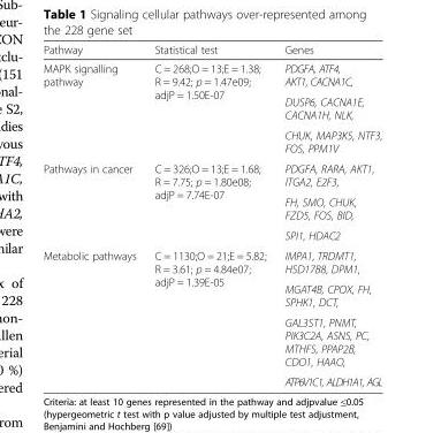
<table><thead><tr><td>Pathway</td><td>Statistical test</td><td>Genes</td></tr></thead><tbody><tr><td rowspan="3">MAPK signalling pathway</td><td rowspan="3">C = 268;O = 13;E = 1.38; R = 9.42; p = 1.47e09; adjP = 1.50E-07</td><td>PDGFA, ATF4, AKT1, CACNA1C,</td></tr><tr><td>DUSP6, CACNA1E, CACNA1H, NLK,</td></tr><tr><td>CHUK, MAP3K5, NTF3, FOS, PPM1V</td></tr><tr><td rowspan="3">Pathways in cancer</td><td rowspan="3">C = 326;O = 13;E = 1.68; R = 7.75; p = 1.80e08; adjP = 7.74E-07</td><td>PDGFA, RARA, AKT1, ITGA2, E2F3,</td></tr><tr><td>FH, SMO, CHUK, FZD5, FOS, BID,</td></tr><tr><td>SPI1, HDAC2</td></tr><tr><td rowspan="4">Metabolic pathways</td><td rowspan="4">C = 1130;O = 21;E = 5.82; R = 3.61; p = 4.84e07; adjP = 1.39E-05</td><td>IMPA1, TRDMT1, HSD17B8, DPM1,</td></tr><tr><td>MGAT4B, CPOX, FH, SPHK1, DCT,</td></tr><tr><td>GAL3ST1, PNMT, PIK3C2A, ASNS, PC, MTHFS, PPAP2B, CDO1, HAAO,</td></tr><tr><td>ATP6V1C1, ALDH1A1, AGL</td></tr></tbody></table>